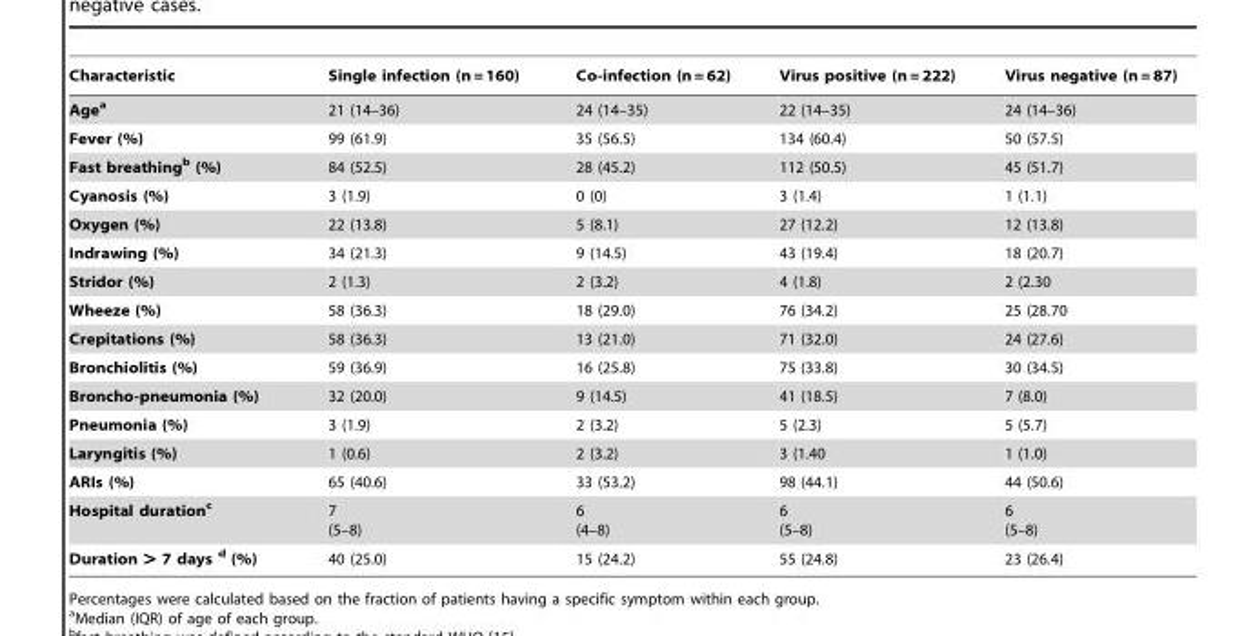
<table><thead><tr><td>Characteristic</td><td>Single infection (n = 160)</td><td>Co-infection (n = 62)</td><td>Virus positive (n = 222)</td><td>Virus negative (n = 87)</td></tr></thead><tbody><tr><td>Agea</td><td>21 (14–36)</td><td>24 (14–35)</td><td>22 (14–35)</td><td>24 (14–36)</td></tr><tr><td>Fever (%)</td><td>99 (61.9)</td><td>35 (56.5)</td><td>134 (60.4)</td><td>50 (57.5)</td></tr><tr><td>Fast breathingb (%)</td><td>84 (52.5)</td><td>28 (45.2)</td><td>112 (50.5)</td><td>45 (51.7)</td></tr><tr><td>Cyanosis (%)</td><td>3 (1.9)</td><td>0 (0)</td><td>3 (1.4)</td><td>1 (1.1)</td></tr><tr><td>Oxygen (%)</td><td>22 (13.8)</td><td>5 (8.1)</td><td>27 (12.2)</td><td>12 (13.8)</td></tr><tr><td>Indrawing (%)</td><td>34 (21.3)</td><td>9 (14.5)</td><td>43 (19.4)</td><td>18 (20.7)</td></tr><tr><td>Stridor (%)</td><td>2 (1.3)</td><td>2 (3.2)</td><td>4 (1.8)</td><td>2 (2.30</td></tr><tr><td>Wheeze (%)</td><td>58 (36.3)</td><td>18 (29.0)</td><td>76 (34.2)</td><td>25 (28.70</td></tr><tr><td>Crepitations (%)</td><td>58 (36.3)</td><td>13 (21.0)</td><td>71 (32.0)</td><td>24 (27.6)</td></tr><tr><td>Bronchiolitis (%)</td><td>59 (36.9)</td><td>16 (25.8)</td><td>75 (33.8)</td><td>30 (34.5)</td></tr><tr><td>Broncho-pneumonia (%)</td><td>32 (20.0)</td><td>9 (14.5)</td><td>41 (18.5)</td><td>7 (8.0)</td></tr><tr><td>Pneumonia (%)</td><td>3 (1.9)</td><td>2 (3.2)</td><td>5 (2.3)</td><td>5 (5.7)</td></tr><tr><td>Laryngitis (%)</td><td>1 (0.6)</td><td>2 (3.2)</td><td>3 (1.40</td><td>1 (1.0)</td></tr><tr><td>ARIs (%)</td><td>65 (40.6)</td><td>33 (53.2)</td><td>98 (44.1)</td><td>44 (50.6)</td></tr><tr><td>Hospital durationc</td><td>7 (5–8)</td><td>6 (4–8)</td><td>6 (5–8)</td><td>6 (5–8)</td></tr><tr><td>Duration &gt; 7 days d (%)</td><td>40 (25.0)</td><td>15 (24.2)</td><td>55 (24.8)</td><td>23 (26.4)</td></tr></tbody></table>